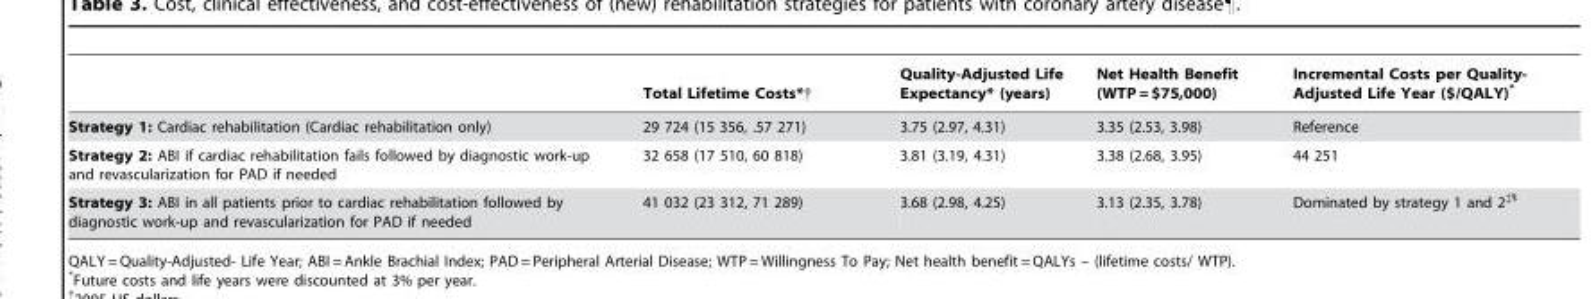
<table><thead><tr><td></td><td>Total Lifetime Costs*†</td><td>Quality-Adjusted Life Expectancy* (years)</td><td>Net Health Benefit (WTP = $75,000)</td><td>Incremental Costs per Quality- Adjusted Life Year ($/QALY)*</td></tr></thead><tbody><tr><td>Strategy 1: Cardiac rehabilitation (Cardiac rehabilitation only)</td><td>29 724 (15 356, .57 271)</td><td>3.75 (2.97, 4.31)</td><td>3.35 (2.53, 3.98)</td><td>Reference</td></tr><tr><td>Strategy 2: ABI if cardiac rehabilitation fails followed by diagnostic work-up and revascularization for PAD if needed</td><td>32 658 (17 510, 60 818)</td><td>3.81 (3.19, 4.31)</td><td>3.38 (2.68, 3.95)</td><td>44 251</td></tr><tr><td>Strategy 3: ABI in all patients prior to cardiac rehabilitation followed by diagnostic work-up and revascularization for PAD if needed</td><td>41 032 (23 312, 71 289)</td><td>3.68 (2.98, 4.25)</td><td>3.13 (2.35, 3.78)</td><td>Dominated by strategy 1 and 2‡§</td></tr></tbody></table>